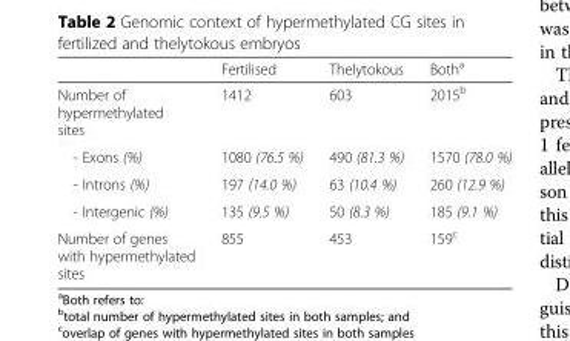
<table><thead><tr><td></td><td>Fertilised</td><td>Thelytokous</td><td>Both<sup>a</sup></td></tr></thead><tbody><tr><td>Number of hypermethylated sites</td><td>1412</td><td>603</td><td>2015<sup>b</sup></td></tr><tr><td>- Exons (%)</td><td>1080 (76.5 %)</td><td>490 (81.3 %)</td><td>1570 (78.0 %)</td></tr><tr><td>- Introns (%)</td><td>197 (14.0 %)</td><td>63 (10.4 %)</td><td>260 (12.9 %)</td></tr><tr><td>- Intergenic (%)</td><td>135 (9.5 %)</td><td>50 (8.3 %)</td><td>185 (9.1 %)</td></tr><tr><td>Number of genes with hypermethylated sites</td><td>855</td><td>453</td><td>159<sup>c</sup></td></tr></tbody></table>